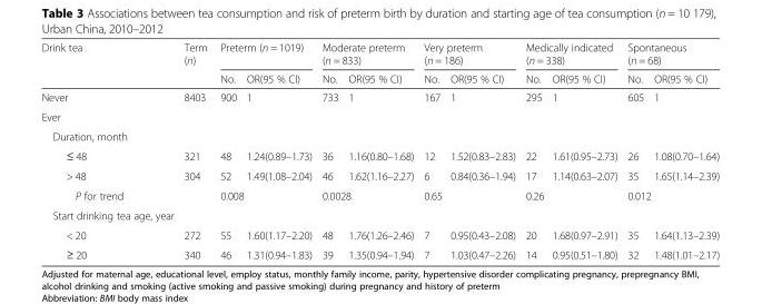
<table><thead><tr><td rowspan="2">Drink tea</td><td rowspan="2">Term (n)</td><td colspan="2">Preterm (n = 1019)</td><td colspan="2">Moderate preterm (n = 833)</td><td colspan="2">Very preterm (n = 186)</td><td colspan="2">Medically indicated (n = 338)</td><td colspan="2">Spontaneous (n = 68)</td></tr><tr><td>No.</td><td>OR(95 % CI)</td><td>No.</td><td>OR(95 % CI)</td><td>No.</td><td>OR(95 % CI)</td><td>No.</td><td>OR(95 % CI)</td><td>No.</td><td>OR(95 % CI)</td></tr></thead><tbody><tr><td>Never</td><td>8403</td><td>900</td><td>1</td><td>733</td><td>1</td><td>167</td><td>1</td><td>295</td><td>1</td><td>605</td><td>1</td></tr><tr><td colspan="12">Ever</td></tr><tr><td colspan="12">Duration, month</td></tr><tr><td>≤ 48</td><td>321</td><td>48</td><td>1.24(0.89–1.73)</td><td>36</td><td>1.16(0.80–1.68)</td><td>12</td><td>1.52(0.83–2.83)</td><td>22</td><td>1.61(0.95–2.73)</td><td>26</td><td>1.08(0.70–1.64)</td></tr><tr><td>&gt; 48</td><td>304</td><td>52</td><td>1.49(1.08–2.04)</td><td>46</td><td>1.62(1.16–2.27)</td><td>6</td><td>0.84(0.36–1.94)</td><td>17</td><td>1.14(0.63–2.07)</td><td>35</td><td>1.65(1.14–2.39)</td></tr><tr><td>P for trend</td><td></td><td colspan="2">0.008</td><td colspan="2">0.0028</td><td colspan="2">0.65</td><td colspan="2">0.26</td><td colspan="2">0.012</td></tr><tr><td colspan="12">Start drinking tea age, year</td></tr><tr><td>&lt; 20</td><td>272</td><td>55</td><td>1.60(1.17–2.20)</td><td>48</td><td>1.76(1.26–2.46)</td><td>7</td><td>0.95(0.43–2.08)</td><td>20</td><td>1.68(0.97–2.91)</td><td>35</td><td>1.64(1.13–2.39)</td></tr><tr><td>≥ 20</td><td>340</td><td>46</td><td>1.31(0.94–1.83)</td><td>39</td><td>1.35(0.94–1.94)</td><td>7</td><td>1.03(0.47–2.26)</td><td>14</td><td>0.95(0.51–1.80)</td><td>32</td><td>1.48(1.01–2.17)</td></tr></tbody></table>